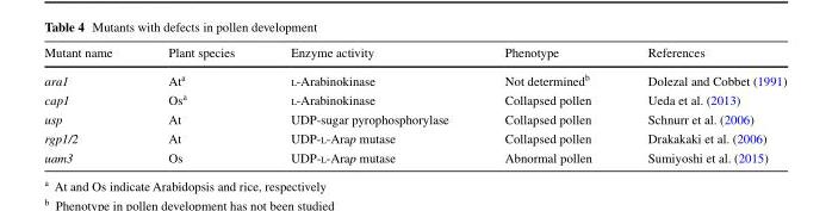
<table><thead><tr><td>Mutant name</td><td>Plant species</td><td>Enzyme activity</td><td>Phenotype</td><td>References</td></tr></thead><tbody><tr><td>ara1</td><td>At<sup>a</sup></td><td>l-Arabinokinase</td><td>Not determined<sup>b</sup></td><td>Dolezal and Cobbet (1991)</td></tr><tr><td>cap1</td><td>Os<sup>a</sup></td><td>l-Arabinokinase</td><td>Collapsed pollen</td><td>Ueda et al. (2013)</td></tr><tr><td>usp</td><td>At</td><td>UDP-sugar pyrophosphorylase</td><td>Collapsed pollen</td><td>Schnurr et al. (2006)</td></tr><tr><td>rgp1/2</td><td>At</td><td>UDP-l-Arap mutase</td><td>Collapsed pollen</td><td>Drakakaki et al. (2006)</td></tr><tr><td>uam3</td><td>Os</td><td>UDP-l-Arap mutase</td><td>Abnormal pollen</td><td>Sumiyoshi et al. (2015)</td></tr></tbody></table>